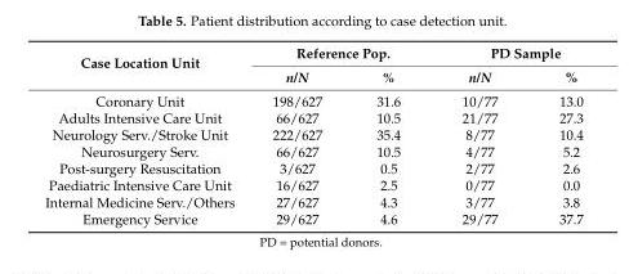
<table><thead><tr><td rowspan="2">Case Location Unit</td><td colspan="2">Reference Pop.</td><td colspan="2">PD Sample</td></tr><tr><td>n/N</td><td>%</td><td>n/N</td><td>%</td></tr></thead><tbody><tr><td>Coronary Unit</td><td>198/627</td><td>31.6</td><td>10/77</td><td>13.0</td></tr><tr><td>Adults Intensive Care Unit</td><td>66/627</td><td>10.5</td><td>21/77</td><td>27.3</td></tr><tr><td>Neurology Serv./Stroke Unit</td><td>222/627</td><td>35.4</td><td>8/77</td><td>10.4</td></tr><tr><td>Neurosurgery Serv.</td><td>66/627</td><td>10.5</td><td>4/77</td><td>5.2</td></tr><tr><td>Post-surgery Resuscitation</td><td>3/627</td><td>0.5</td><td>2/77</td><td>2.6</td></tr><tr><td>Paediatric Intensive Care Unit</td><td>16/627</td><td>2.5</td><td>0/77</td><td>0.0</td></tr><tr><td>Internal Medicine Serv./Others</td><td>27/627</td><td>4.3</td><td>3/77</td><td>3.8</td></tr><tr><td>Emergency Service</td><td>29/627</td><td>4.6</td><td>29/77</td><td>37.7</td></tr></tbody></table>